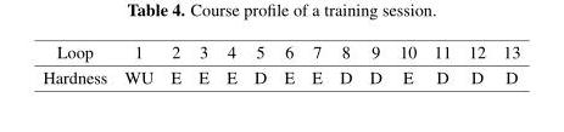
<table><thead><tr><td>Loop</td><td>1</td><td>2</td><td>3</td><td>4</td><td>5</td><td>6</td><td>7</td><td>8</td><td>9</td><td>10</td><td>11</td><td>12</td><td>13</td></tr></thead><tbody><tr><td>Hardness</td><td>WU</td><td>E</td><td>E</td><td>E</td><td>D</td><td>E</td><td>E</td><td>D</td><td>D</td><td>E</td><td>D</td><td>D</td><td>D</td></tr></tbody></table>